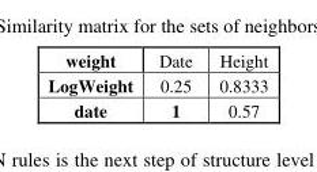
<table><thead><tr><td>weight</td><td>Date</td><td>Height</td></tr></thead><tbody><tr><td>LogWeight</td><td>0.25</td><td>0.8333</td></tr><tr><td>date</td><td>1</td><td>0.57</td></tr></tbody></table>